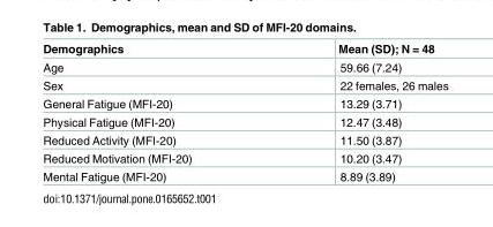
<table><thead><tr><td>Demographics</td><td>Mean (SD); N = 48</td></tr></thead><tbody><tr><td>Age</td><td>59.66 (7.24)</td></tr><tr><td>Sex</td><td>22 females, 26 males</td></tr><tr><td>General Fatigue (MFI-20)</td><td>13.29 (3.71)</td></tr><tr><td>Physical Fatigue (MFI-20)</td><td>12.47 (3.48)</td></tr><tr><td>Reduced Activity (MFI-20)</td><td>11.50 (3.87)</td></tr><tr><td>Reduced Motivation (MFI-20)</td><td>10.20 (3.47)</td></tr><tr><td>Mental Fatigue (MFI-20)</td><td>8.89 (3.89)</td></tr></tbody></table>